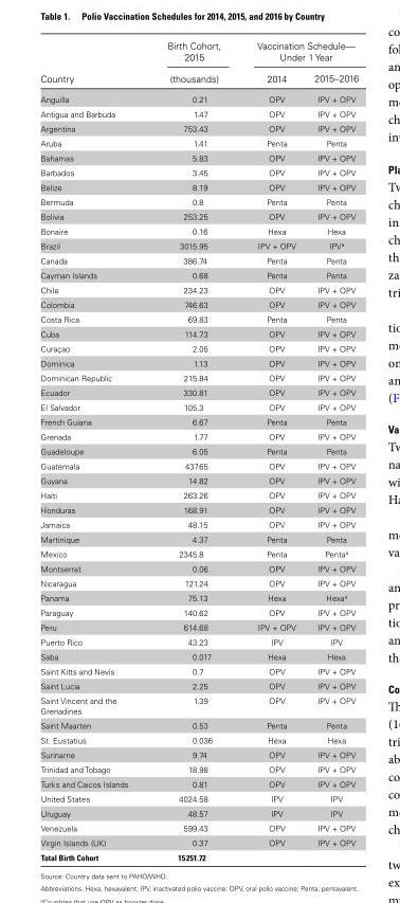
<table><thead><tr><td rowspan="2">Country</td><td rowspan="2">Birth Cohort, 2015 (thousands)</td><td colspan="2">Vaccination Schedule— Under 1 Year</td></tr><tr><td>2014</td><td>2015–2016</td></tr></thead><tbody><tr><td>Anguilla</td><td>0.21</td><td>OPV</td><td>IPV + OPV</td></tr><tr><td>Antigua and Barbuda</td><td>1.47</td><td>OPV</td><td>IPV + OPV</td></tr><tr><td>Argentina</td><td>753.43</td><td>OPV</td><td>IPV + OPV</td></tr><tr><td>Aruba</td><td>1.41</td><td>Penta</td><td>Penta</td></tr><tr><td>Bahamas</td><td>5.83</td><td>OPV</td><td>IPV + OPV</td></tr><tr><td>Barbados</td><td>3.45</td><td>OPV</td><td>IPV + OPV</td></tr><tr><td>Belize</td><td>8.19</td><td>OPV</td><td>IPV + OPV</td></tr><tr><td>Bermuda</td><td>0.8</td><td>Penta</td><td>Penta</td></tr><tr><td>Bolivia</td><td>253.25</td><td>OPV</td><td>IPV + OPV</td></tr><tr><td>Bonaire</td><td>0.16</td><td>Hexa</td><td>Hexa</td></tr><tr><td>Brazil</td><td>3015.95</td><td>IPV + OPV</td><td>IPV<sup>a</sup></td></tr><tr><td>Canada</td><td>386.74</td><td>Penta</td><td>Penta</td></tr><tr><td>Cayman Islands</td><td>0.68</td><td>Penta</td><td>Penta</td></tr><tr><td>Chile</td><td>234.23</td><td>OPV</td><td>IPV + OPV</td></tr><tr><td>Colombia</td><td>746.63</td><td>OPV</td><td>IPV + OPV</td></tr><tr><td>Costa Rica</td><td>69.83</td><td>Penta</td><td>Penta</td></tr><tr><td>Cuba</td><td>114.73</td><td>OPV</td><td>IPV + OPV</td></tr><tr><td>Curaçao</td><td>2.05</td><td>OPV</td><td>IPV + OPV</td></tr><tr><td>Dominica</td><td>1.13</td><td>OPV</td><td>IPV + OPV</td></tr><tr><td>Dominican Republic</td><td>215.84</td><td>OPV</td><td>IPV + OPV</td></tr><tr><td>Ecuador</td><td>330.81</td><td>OPV</td><td>IPV + OPV</td></tr><tr><td>El Salvador</td><td>105.3</td><td>OPV</td><td>IPV + OPV</td></tr><tr><td>French Guiana</td><td>6.67</td><td>Penta</td><td>Penta</td></tr><tr><td>Grenada</td><td>1.77</td><td>OPV</td><td>IPV + OPV</td></tr><tr><td>Guadeloupe</td><td>6.05</td><td>Penta</td><td>Penta</td></tr><tr><td>Guatemala</td><td>437.65</td><td>OPV</td><td>IPV + OPV</td></tr><tr><td>Guyana</td><td>14.82</td><td>OPV</td><td>IPV + OPV</td></tr><tr><td>Haiti</td><td>263.26</td><td>OPV</td><td>IPV + OPV</td></tr><tr><td>Honduras</td><td>168.91</td><td>OPV</td><td>IPV + OPV</td></tr><tr><td>Jamaica</td><td>48.15</td><td>OPV</td><td>IPV + OPV</td></tr><tr><td>Martinique</td><td>4.37</td><td>Penta</td><td>Penta</td></tr><tr><td>Mexico</td><td>2345.8</td><td>Penta</td><td>Penta<sup>a</sup></td></tr><tr><td>Montserrat</td><td>0.06</td><td>OPV</td><td>IPV + OPV</td></tr><tr><td>Nicaragua</td><td>121.24</td><td>OPV</td><td>IPV + OPV</td></tr><tr><td>Panama</td><td>75.13</td><td>Hexa</td><td>Hexa<sup>a</sup></td></tr><tr><td>Paraguay</td><td>140.62</td><td>OPV</td><td>IPV + OPV</td></tr><tr><td>Peru</td><td>614.68</td><td>IPV + OPV</td><td>IPV + OPV</td></tr><tr><td>Puerto Rico</td><td>43.23</td><td>IPV</td><td>IPV</td></tr><tr><td>Saba</td><td>0.017</td><td>Hexa</td><td>Hexa</td></tr><tr><td>Saint Kitts and Nevis</td><td>0.7</td><td>OPV</td><td>IPV + OPV</td></tr><tr><td>Saint Lucia</td><td>2.25</td><td>OPV</td><td>IPV + OPV</td></tr><tr><td>Saint Vincent and the Grenadines</td><td>1.39</td><td>OPV</td><td>IPV + OPV</td></tr><tr><td>Saint Maarten</td><td>0.53</td><td>Penta</td><td>Penta</td></tr><tr><td>St. Eustatius</td><td>0.036</td><td>Hexa</td><td>Hexa</td></tr><tr><td>Suriname</td><td>9.74</td><td>OPV</td><td>IPV + OPV</td></tr><tr><td>Trinidad and Tobago</td><td>18.98</td><td>OPV</td><td>IPV + OPV</td></tr><tr><td>Turks and Caicos Islands</td><td>0.81</td><td>OPV</td><td>IPV + OPV</td></tr><tr><td>United States</td><td>4024.58</td><td>IPV</td><td>IPV</td></tr><tr><td>Uruguay</td><td>48.57</td><td>IPV</td><td>IPV</td></tr><tr><td>Venezuela</td><td>599.43</td><td>OPV</td><td>IPV + OPV</td></tr><tr><td>Virgin Islands (UK)</td><td>0.37</td><td>OPV</td><td>IPV + OPV</td></tr><tr><td>Total Birth Cohort</td><td>15 251.72</td><td></td><td></td></tr></tbody></table>